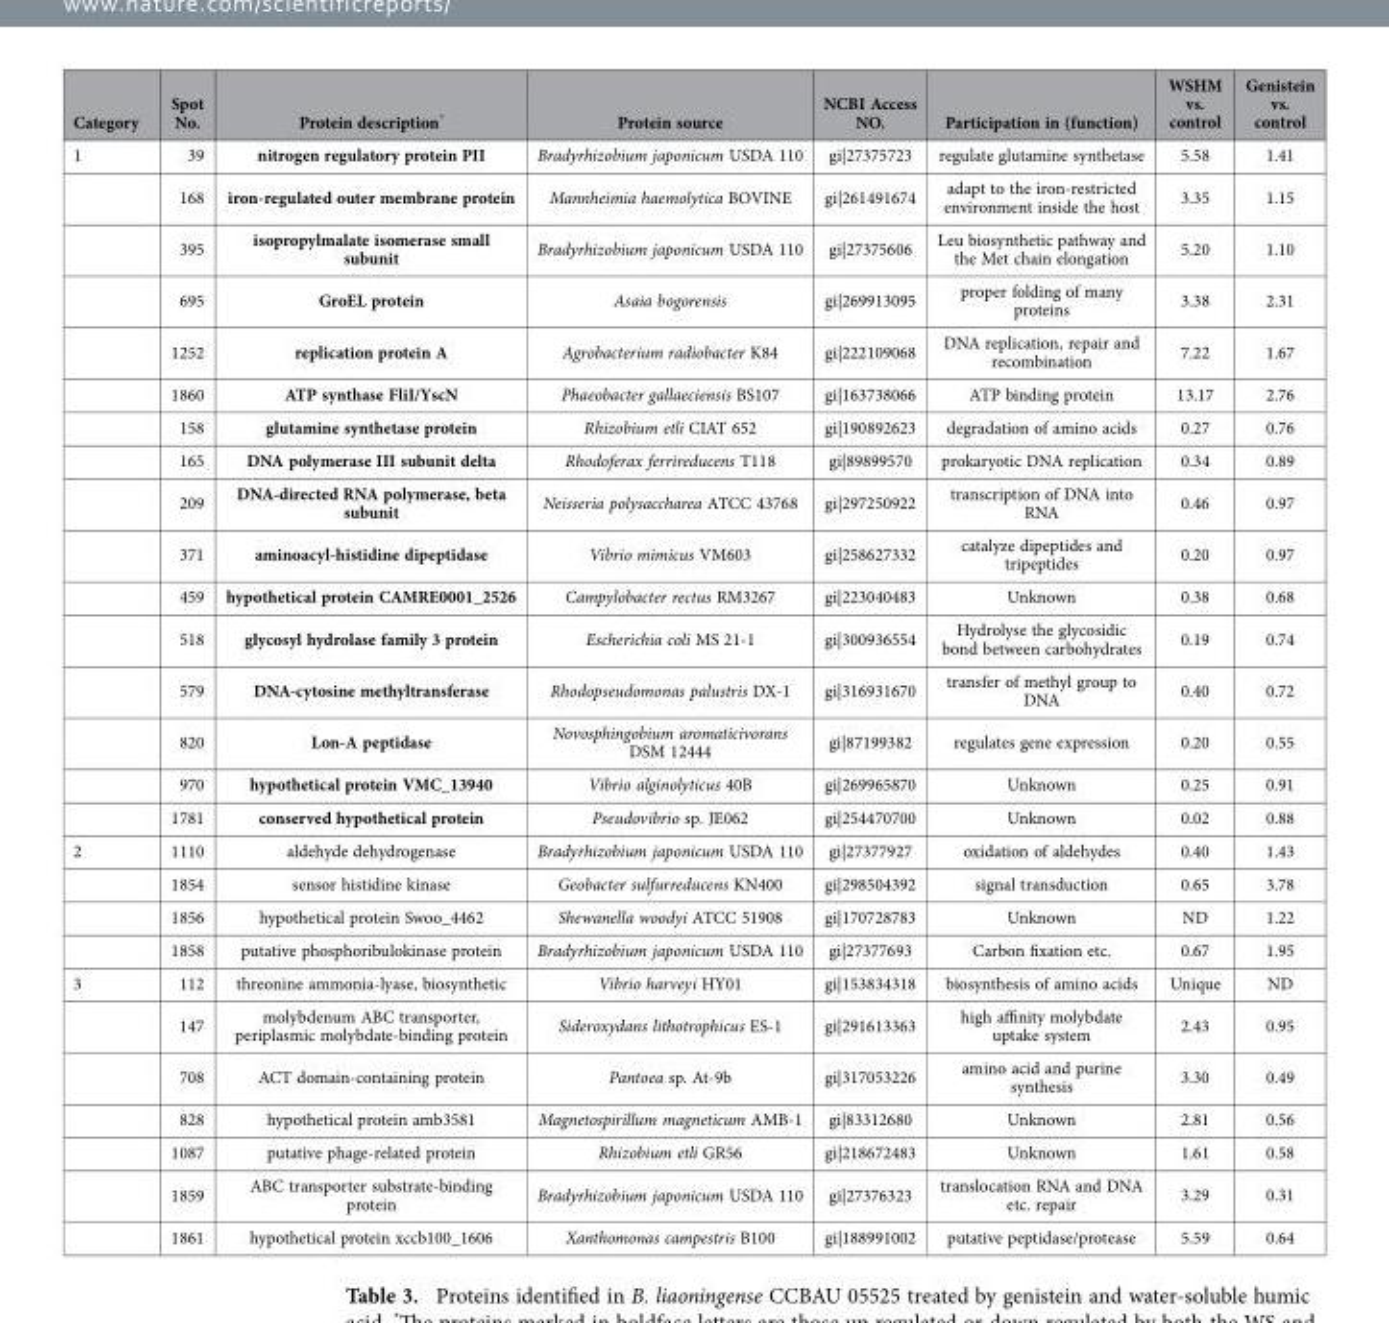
<table><thead><tr><td>Category</td><td>Spot No.</td><td>Protein description*</td><td>Protein source</td><td>NCBI Access NO.</td><td>Participation in (function)</td><td>WSHM vs. control</td><td>Genistein vs. control</td></tr></thead><tbody><tr><td rowspan="16">1</td><td>39</td><td>nitrogen regulatory protein PII</td><td>Bradyrhizobium japonicum USDA 110</td><td>gi|27375723</td><td>regulate glutamine synthetase</td><td>5.58</td><td>1.41</td></tr><tr><td>168</td><td>iron-regulated outer membrane protein</td><td>Mannheimia haemolytica BOVINE</td><td>gi|261491674</td><td>adapt to the iron-restricted environment inside the host</td><td>3.35</td><td>1.15</td></tr><tr><td>395</td><td>isopropylmalate isomerase small subunit</td><td>Bradyrhizobium japonicum USDA 110</td><td>gi|27375606</td><td>Leu biosynthetic pathway and the Met chain elongation</td><td>5.20</td><td>1.10</td></tr><tr><td>695</td><td>GroEL protein</td><td>Asaia bogorensis</td><td>gi|269913095</td><td>proper folding of many proteins</td><td>3.38</td><td>2.31</td></tr><tr><td>1252</td><td>replication protein A</td><td>Agrobacterium radiobacter K84</td><td>gi|222109068</td><td>DNA replication, repair and recombination</td><td>7.22</td><td>1.67</td></tr><tr><td>1860</td><td>ATP synthase FliI/YscN</td><td>Phaeobacter gallaeciensis BS107</td><td>gi|163738066</td><td>ATP binding protein</td><td>13.17</td><td>2.76</td></tr><tr><td>158</td><td>glutamine synthetase protein</td><td>Rhizobium etli CIAT 652</td><td>gi|190892623</td><td>degradation of amino acids</td><td>0.27</td><td>0.76</td></tr><tr><td>165</td><td>DNA polymerase III subunit delta</td><td>Rhodoferax ferrireducens T118</td><td>gi|89899570</td><td>prokaryotic DNA replication</td><td>0.34</td><td>0.89</td></tr><tr><td>209</td><td>DNA-directed RNA polymerase, beta subunit</td><td>Neisseria polysaccharea ATCC 43768</td><td>gi|297250922</td><td>transcription of DNA into RNA</td><td>0.46</td><td>0.97</td></tr><tr><td>371</td><td>aminoacyl-histidine dipeptidase</td><td>Vibrio mimicus VM603</td><td>gi|258627332</td><td>catalyze dipeptides and tripeptides</td><td>0.20</td><td>0.97</td></tr><tr><td>459</td><td>hypothetical protein CAMRE0001_2526</td><td>Campylobacter rectus RM3267</td><td>gi|223040483</td><td>Unknown</td><td>0.38</td><td>0.68</td></tr><tr><td>518</td><td>glycosyl hydrolase family 3 protein</td><td>Escherichia coli MS 21-1</td><td>gi|300936554</td><td>Hydrolyse the glycosidic bond between carbohydrates</td><td>0.19</td><td>0.74</td></tr><tr><td>579</td><td>DNA-cytosine methyltransferase</td><td>Rhodopseudomonas palustris DX-1</td><td>gi|316931670</td><td>transfer of methyl group to DNA</td><td>0.40</td><td>0.72</td></tr><tr><td>820</td><td>Lon-A peptidase</td><td>Novosphingobium aromaticivorans DSM 12444</td><td>gi|87199382</td><td>regulates gene expression</td><td>0.20</td><td>0.55</td></tr><tr><td>970</td><td>hypothetical protein VMC_13940</td><td>Vibrio alginolyticus 40B</td><td>gi|269965870</td><td>Unknown</td><td>0.25</td><td>0.91</td></tr><tr><td>1781</td><td>conserved hypothetical protein</td><td>Pseudovibrio sp. JE062</td><td>gi|254470700</td><td>Unknown</td><td>0.02</td><td>0.88</td></tr><tr><td rowspan="4">2</td><td>1110</td><td>aldehyde dehydrogenase</td><td>Bradyrhizobium japonicum USDA 110</td><td>gi|27377927</td><td>oxidation of aldehydes</td><td>0.40</td><td>1.43</td></tr><tr><td>1854</td><td>sensor histidine kinase</td><td>Geobacter sulfurreducens KN400</td><td>gi|298504392</td><td>signal transduction</td><td>0.65</td><td>3.78</td></tr><tr><td>1856</td><td>hypothetical protein Swoo_4462</td><td>Shewanella woodyi ATCC 51908</td><td>gi|170728783</td><td>Unknown</td><td>ND</td><td>1.22</td></tr><tr><td>1858</td><td>putative phosphoribulokinase protein</td><td>Bradyrhizobium japonicum USDA 110</td><td>gi|27377693</td><td>Carbon fixation etc.</td><td>0.67</td><td>1.95</td></tr><tr><td rowspan="7">3</td><td>112</td><td>threonine ammonia-lyase, biosynthetic</td><td>Vibrio harveyi HY01</td><td>gi|153834318</td><td>biosynthesis of amino acids</td><td>Unique</td><td>ND</td></tr><tr><td>147</td><td>molybdenum ABC transporter, periplasmic molybdate-binding protein</td><td>Sideroxydans lithotrophicus ES-1</td><td>gi|291613363</td><td>high affinity molybdate uptake system</td><td>2.43</td><td>0.95</td></tr><tr><td>708</td><td>ACT domain-containing protein</td><td>Pantoea sp. At-9b</td><td>gi|317053226</td><td>amino acid and purine synthesis</td><td>3.30</td><td>0.49</td></tr><tr><td>828</td><td>hypothetical protein amb3581</td><td>Magnetospirillum magneticum AMB-1</td><td>gi|83312680</td><td>Unknown</td><td>2.81</td><td>0.56</td></tr><tr><td>1087</td><td>putative phage-related protein</td><td>Rhizobium etli GR56</td><td>gi|218672483</td><td>Unknown</td><td>1.61</td><td>0.58</td></tr><tr><td>1859</td><td>ABC transporter substrate-binding protein</td><td>Bradyrhizobium japonicum USDA 110</td><td>gi|27376323</td><td>translocation RNA and DNA etc. repair</td><td>3.29</td><td>0.31</td></tr><tr><td>1861</td><td>hypothetical protein xccb100_1606</td><td>Xanthomonas campestris B100</td><td>gi|188991002</td><td>putative peptidase/protease</td><td>5.59</td><td>0.64</td></tr></tbody></table>